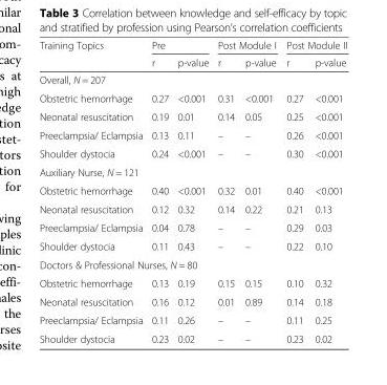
<table><thead><tr><td rowspan="2">Training Topics</td><td colspan="2">Pre</td><td colspan="2">Post Module I</td><td colspan="2">Post Module II</td></tr><tr><td>r</td><td>p-value</td><td>r</td><td>p-value</td><td>r</td><td>p-value</td></tr></thead><tbody><tr><td colspan="7">Overall, N = 207</td></tr><tr><td>Obstetric hemorrhage</td><td>0.27</td><td>&lt;0.001</td><td>0.31</td><td>&lt;0.001</td><td>0.27</td><td>&lt;0.001</td></tr><tr><td>Neonatal resuscitation</td><td>0.19</td><td>0.01</td><td>0.14</td><td>0.05</td><td>0.25</td><td>&lt;0.001</td></tr><tr><td>Preeclampsia/ Eclampsia</td><td>0.13</td><td>0.11</td><td>–</td><td>–</td><td>0.26</td><td>&lt;0.001</td></tr><tr><td>Shoulder dystocia</td><td>0.24</td><td>&lt;0.001</td><td>–</td><td>–</td><td>0.30</td><td>&lt;0.001</td></tr><tr><td colspan="7">Auxiliary Nurse, N = 121</td></tr><tr><td>Obstetric hemorrhage</td><td>0.40</td><td>&lt;0.001</td><td>0.32</td><td>0.01</td><td>0.40</td><td>&lt;0.001</td></tr><tr><td>Neonatal resuscitation</td><td>0.12</td><td>0.32</td><td>0.14</td><td>0.22</td><td>0.21</td><td>0.13</td></tr><tr><td>Preeclampsia/ Eclampsia</td><td>0.04</td><td>0.78</td><td>–</td><td>–</td><td>0.29</td><td>0.03</td></tr><tr><td>Shoulder dystocia</td><td>0.11</td><td>0.43</td><td>–</td><td>–</td><td>0.22</td><td>0.10</td></tr><tr><td colspan="7">Doctors &amp; Professional Nurses, N = 80</td></tr><tr><td>Obstetric hemorrhage</td><td>0.13</td><td>0.19</td><td>0.15</td><td>0.15</td><td>0.10</td><td>0.32</td></tr><tr><td>Neonatal resuscitation</td><td>0.16</td><td>0.12</td><td>0.01</td><td>0.89</td><td>0.14</td><td>0.18</td></tr><tr><td>Preeclampsia/ Eclampsia</td><td>0.11</td><td>0.26</td><td>–</td><td>–</td><td>0.11</td><td>0.25</td></tr><tr><td>Shoulder dystocia</td><td>0.23</td><td>0.02</td><td>–</td><td>–</td><td>0.23</td><td>0.02</td></tr></tbody></table>